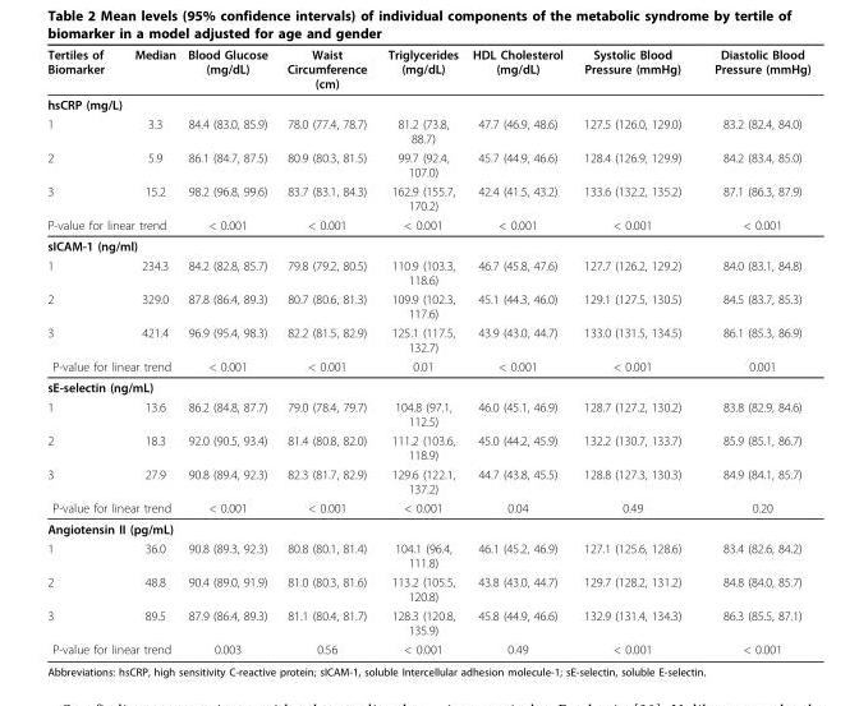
<table><thead><tr><td>Tertiles of Biomarker</td><td>Median</td><td>Blood Glucose (mg/dL)</td><td>Waist Circumference (cm)</td><td>Triglycerides (mg/dL)</td><td>HDL Cholesterol (mg/dL)</td><td>Systolic Blood Pressure (mmHg)</td><td>Diastolic Blood Pressure (mmHg)</td></tr></thead><tbody><tr><td colspan="8">hsCRP (mg/L)</td></tr><tr><td>1</td><td>3.3</td><td>84.4 (83.0, 85.9)</td><td>78.0 (77.4, 78.7)</td><td>81.2 (73.8, 88.7)</td><td>47.7 (46.9, 48.6)</td><td>127.5 (126.0, 129.0)</td><td>83.2 (82.4, 84.0)</td></tr><tr><td>2</td><td>5.9</td><td>86.1 (84.7, 87.5)</td><td>80.9 (80.3, 81.5)</td><td>99.7 (92.4, 107.0)</td><td>45.7 (44.9, 46.6)</td><td>128.4 (126.9, 129.9)</td><td>84.2 (83.4, 85.0)</td></tr><tr><td>3</td><td>15.2</td><td>98.2 (96.8, 99.6)</td><td>83.7 (83.1, 84.3)</td><td>162.9 (155.7, 170.2)</td><td>42.4 (41.5, 43.2)</td><td>133.6 (132.2, 135.2)</td><td>87.1 (86.3, 87.9)</td></tr><tr><td colspan="2">P-value for linear trend</td><td>&lt; 0.001</td><td>&lt; 0.001</td><td>&lt; 0.001</td><td>&lt; 0.001</td><td>&lt; 0.001</td><td>&lt; 0.001</td></tr><tr><td colspan="8">sICAM-1 (ng/ml)</td></tr><tr><td>1</td><td>234.3</td><td>84.2 (82.8, 85.7)</td><td>79.8 (79.2, 80.5)</td><td>110.9 (103.3, 118.6)</td><td>46.7 (45.8, 47.6)</td><td>127.7 (126.2, 129.2)</td><td>84.0 (83.1, 84.8)</td></tr><tr><td>2</td><td>329.0</td><td>87.8 (86.4, 89.3)</td><td>80.7 (80.6, 81.3)</td><td>109.9 (102.3, 117.6)</td><td>45.1 (44.3, 46.0)</td><td>129.1 (127.5, 130.5)</td><td>84.5 (83.7, 85.3)</td></tr><tr><td>3</td><td>421.4</td><td>96.9 (95.4, 98.3)</td><td>82.2 (81.5, 82.9)</td><td>125.1 (117.5, 132.7)</td><td>43.9 (43.0, 44.7)</td><td>133.0 (131.5, 134.5)</td><td>86.1 (85.3, 86.9)</td></tr><tr><td colspan="2">P-value for linear trend</td><td>&lt; 0.001</td><td>&lt; 0.001</td><td>0.01</td><td>&lt; 0.001</td><td>&lt; 0.001</td><td>0.001</td></tr><tr><td colspan="8">sE-selectin (ng/mL)</td></tr><tr><td>1</td><td>13.6</td><td>86.2 (84.8, 87.7)</td><td>79.0 (78.4, 79.7)</td><td>104.8 (97.1, 112.5)</td><td>46.0 (45.1, 46.9)</td><td>128.7 (127.2, 130.2)</td><td>83.8 (82.9, 84.6)</td></tr><tr><td>2</td><td>18.3</td><td>92.0 (90.5, 93.4)</td><td>81.4 (80.8, 82.0)</td><td>111.2 (103.6, 118.9)</td><td>45.0 (44.2, 45.9)</td><td>132.2 (130.7, 133.7)</td><td>85.9 (85.1, 86.7)</td></tr><tr><td>3</td><td>27.9</td><td>90.8 (89.4, 92.3)</td><td>82.3 (81.7, 82.9)</td><td>129.6 (122.1, 137.2)</td><td>44.7 (43.8, 45.5)</td><td>128.8 (127.3, 130.3)</td><td>84.9 (84.1, 85.7)</td></tr><tr><td colspan="2">P-value for linear trend</td><td>&lt; 0.001</td><td>&lt; 0.001</td><td>&lt; 0.001</td><td>0.04</td><td>0.49</td><td>0.20</td></tr><tr><td colspan="8">Angiotensin II (pg/mL)</td></tr><tr><td>1</td><td>36.0</td><td>90.8 (89.3, 92.3)</td><td>80.8 (80.1, 81.4)</td><td>104.1 (96.4, 111.8)</td><td>46.1 (45.2, 46.9)</td><td>127.1 (125.6, 128.6)</td><td>83.4 (82.6, 84.2)</td></tr><tr><td>2</td><td>48.8</td><td>90.4 (89.0, 91.9)</td><td>81.0 (80.3, 81.6)</td><td>113.2 (105.5, 120.8)</td><td>43.8 (43.0, 44.7)</td><td>129.7 (128.2, 131.2)</td><td>84.8 (84.0, 85.7)</td></tr><tr><td>3</td><td>89.5</td><td>87.9 (86.4, 89.3)</td><td>81.1 (80.4, 81.7)</td><td>128.3 (120.8, 135.9)</td><td>45.8 (44.9, 46.6)</td><td>132.9 (131.4, 134.3)</td><td>86.3 (85.5, 87.1)</td></tr><tr><td colspan="2">P-value for linear trend</td><td>0.003</td><td>0.56</td><td>&lt; 0.001</td><td>0.49</td><td>&lt; 0.001</td><td>&lt; 0.001</td></tr></tbody></table>